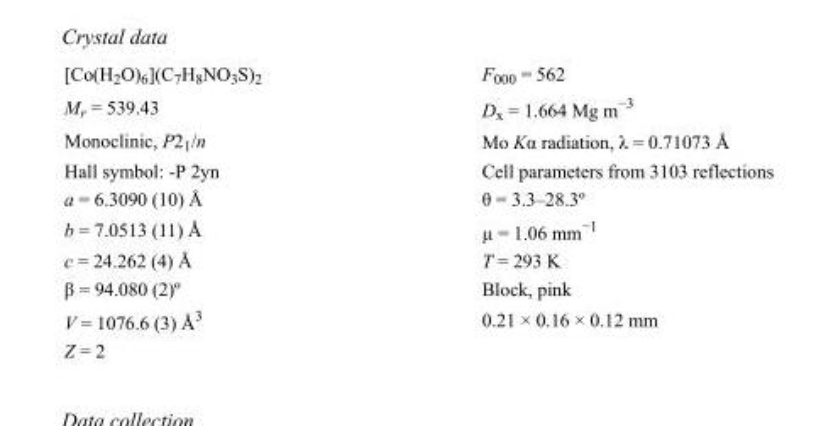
<table><tbody><tr><td>[Co(H<sub>2</sub>O)<sub>6</sub>](C<sub>7</sub>H<sub>8</sub>NO<sub>3</sub>S)<sub>2</sub></td><td>F000 = 562</td></tr><tr><td>M<sub>r</sub> = 539.43</td><td>D<sub>x</sub> = 1.664 Mg m<sup>−3</sup></td></tr><tr><td>Monoclinic, P2<sub>1</sub>/n</td><td>Mo Kα radiation, λ = 0.71073 Å</td></tr><tr><td>Hall symbol: -P 2yn</td><td>Cell parameters from 3103 reflections</td></tr><tr><td>a = 6.3090 (10) Å</td><td>θ = 3.3–28.3º</td></tr><tr><td>b = 7.0513 (11) Å</td><td>µ = 1.06 mm<sup>−1</sup></td></tr><tr><td>c = 24.262 (4) Å</td><td>T = 293 K</td></tr><tr><td>β = 94.080 (2)º</td><td>Block, pink</td></tr><tr><td>V = 1076.6 (3) Å<sup>3</sup></td><td>0.21 × 0.16 × 0.12 mm</td></tr><tr><td>Z = 2</td><td></td></tr></tbody></table>